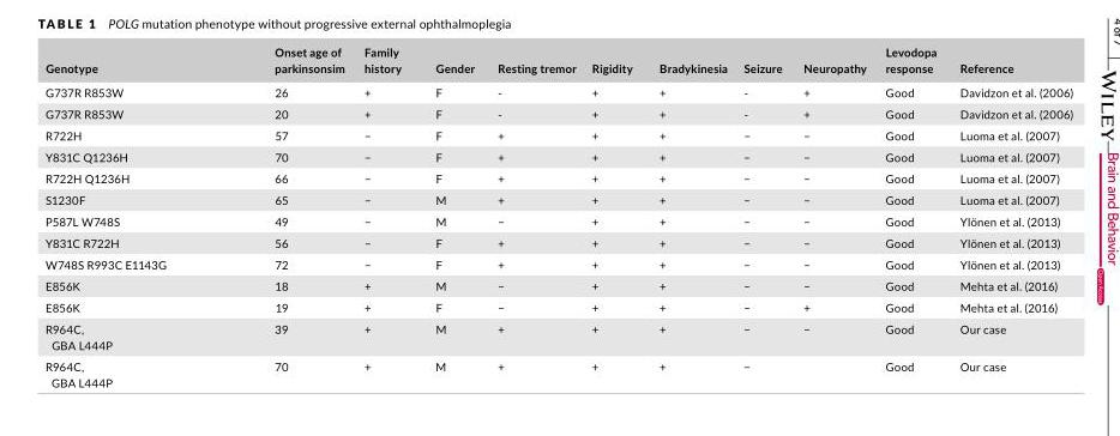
<table><thead><tr><td>Genotype</td><td>Onset age of parkinsonsim</td><td>Family history</td><td>Gender</td><td>Resting tremor</td><td>Rigidity</td><td>Bradykinesia</td><td>Seizure</td><td>Neuropathy</td><td>Levodopa response</td><td>Reference</td></tr></thead><tbody><tr><td>G737R R853W</td><td>26</td><td>+</td><td>F</td><td>‐</td><td>+</td><td>+</td><td>‐</td><td>+</td><td>Good</td><td>Davidzon et al. (2006)</td></tr><tr><td>G737R R853W</td><td>20</td><td>+</td><td>F</td><td>‐</td><td>+</td><td>+</td><td>‐</td><td>+</td><td>Good</td><td>Davidzon et al. (2006)</td></tr><tr><td>R722H</td><td>57</td><td>−</td><td>F</td><td>+</td><td>+</td><td>+</td><td>−</td><td>−</td><td>Good</td><td>Luoma et al. (2007)</td></tr><tr><td>Y831C Q1236H</td><td>70</td><td>−</td><td>F</td><td>+</td><td>+</td><td>+</td><td>−</td><td>−</td><td>Good</td><td>Luoma et al. (2007)</td></tr><tr><td>R722H Q1236H</td><td>66</td><td>−</td><td>F</td><td>+</td><td>+</td><td>+</td><td>−</td><td>−</td><td>Good</td><td>Luoma et al. (2007)</td></tr><tr><td>S1230F</td><td>65</td><td>−</td><td>M</td><td>+</td><td>+</td><td>+</td><td>−</td><td>−</td><td>Good</td><td>Luoma et al. (2007)</td></tr><tr><td>P587L W748S</td><td>49</td><td>−</td><td>M</td><td>−</td><td>+</td><td>+</td><td>−</td><td>−</td><td>Good</td><td>Ylönen et al. (2013)</td></tr><tr><td>Y831C R722H</td><td>56</td><td>−</td><td>F</td><td>+</td><td>+</td><td>+</td><td>−</td><td>−</td><td>Good</td><td>Ylönen et al. (2013)</td></tr><tr><td>W748S R993C E1143G</td><td>72</td><td>−</td><td>F</td><td>+</td><td>+</td><td>+</td><td>−</td><td>−</td><td>Good</td><td>Ylönen et al. (2013)</td></tr><tr><td>E856K</td><td>18</td><td>+</td><td>M</td><td>−</td><td>+</td><td>+</td><td>−</td><td>−</td><td>Good</td><td>Mehta et al. (2016)</td></tr><tr><td>E856K</td><td>19</td><td>+</td><td>F</td><td>−</td><td>+</td><td>+</td><td>−</td><td>+</td><td>Good</td><td>Mehta et al. (2016)</td></tr><tr><td>R964C, GBA L444P</td><td>39</td><td>+</td><td>M</td><td>+</td><td>+</td><td>+</td><td>−</td><td>−</td><td>Good</td><td>Our case</td></tr><tr><td>R964C, GBA L444P</td><td>70</td><td>+</td><td>M</td><td>+</td><td>+</td><td>+</td><td>−</td><td></td><td>Good</td><td>Our case</td></tr></tbody></table>